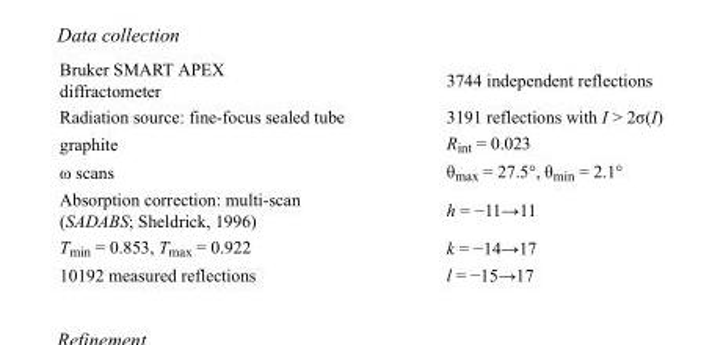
<table><tbody><tr><td>Bruker SMART APEX diffractometer</td><td>3744 independent reflections</td></tr><tr><td>Radiation source: fine-focus sealed tube</td><td>3191 reflections with I &gt; 2σ(I)</td></tr><tr><td>graphite</td><td>R<sub>int</sub> = 0.023</td></tr><tr><td>ω scans</td><td>θ<sub>max</sub> = 27.5°, θ<sub>min</sub> = 2.1°</td></tr><tr><td>Absorption correction: multi-scan (SADABS; Sheldrick, 1996)</td><td>h = −11→11</td></tr><tr><td>T<sub>min</sub> = 0.853, T<sub>max</sub> = 0.922</td><td>k = −14→17</td></tr><tr><td>10192 measured reflections</td><td>l = −15→17</td></tr></tbody></table>